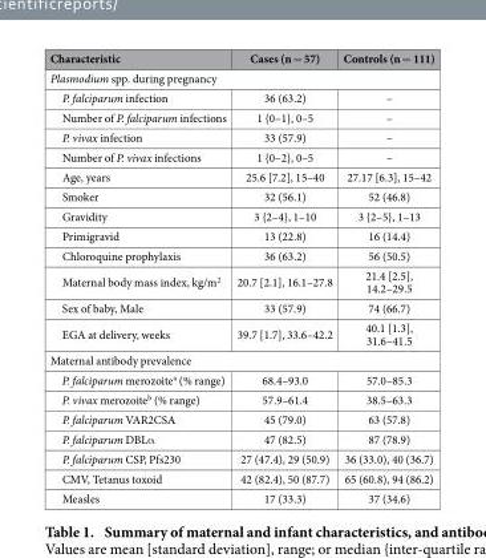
<table><thead><tr><td>Characteristic</td><td>Cases (n = 57)</td><td>Controls (n = 111)</td></tr></thead><tbody><tr><td colspan="3">Plasmodium spp. during pregnancy</td></tr><tr><td>P. falciparum infection</td><td>36 (63.2)</td><td>–</td></tr><tr><td>Number of P. falciparum infections</td><td>1 {0–1}, 0–5</td><td>–</td></tr><tr><td>P. vivax infection</td><td>33 (57.9)</td><td>–</td></tr><tr><td>Number of P. vivax infections</td><td>1 {0–2}, 0–5</td><td>–</td></tr><tr><td>Age, years</td><td>25.6 [7.2], 15–40</td><td>27.17 [6.3], 15–42</td></tr><tr><td>Smoker</td><td>32 (56.1)</td><td>52 (46.8)</td></tr><tr><td>Gravidity</td><td>3 {2–4}, 1–10</td><td>3 {2–5}, 1–13</td></tr><tr><td>Primigravid</td><td>13 (22.8)</td><td>16 (14.4)</td></tr><tr><td>Chloroquine prophylaxis</td><td>36 (63.2)</td><td>56 (50.5)</td></tr><tr><td>Maternal body mass index, kg/m<sup>2</sup></td><td>20.7 [2.1], 16.1–27.8</td><td>21.4 [2.5], 14.2–29.5</td></tr><tr><td>Sex of baby, Male</td><td>33 (57.9)</td><td>74 (66.7)</td></tr><tr><td>EGA at delivery, weeks</td><td>39.7 [1.7], 33.6–42.2</td><td>40.1 [1.3], 31.6–41.5</td></tr><tr><td colspan="3">Maternal antibody prevalence</td></tr><tr><td>P. falciparum merozoite<sup>a</sup> (% range)</td><td>68.4–93.0</td><td>57.0–85.3</td></tr><tr><td>P. vivax merozoite<sup>b</sup> (% range)</td><td>57.9–61.4</td><td>38.5–63.3</td></tr><tr><td>P. falciparum VAR2CSA</td><td>45 (79.0)</td><td>63 (57.8)</td></tr><tr><td>P. falciparum DBLα</td><td>47 (82.5)</td><td>87 (78.9)</td></tr><tr><td>P. falciparum CSP, Pfs230</td><td>27 (47.4), 29 (50.9)</td><td>36 (33.0), 40 (36.7)</td></tr><tr><td>CMV, Tetanus toxoid</td><td>42 (82.4), 50 (87.7)</td><td>65 (60.8), 94 (86.2)</td></tr><tr><td>Measles</td><td>17 (33.3)</td><td>37 (34.6)</td></tr></tbody></table>